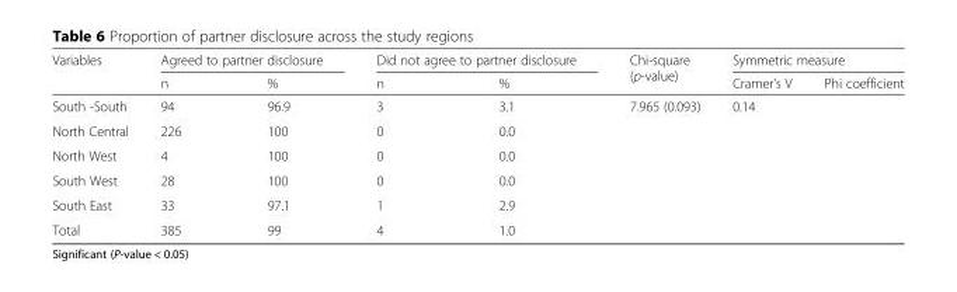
<table><thead><tr><td rowspan="2">Variables</td><td colspan="2">Agreed to partner disclosure</td><td colspan="2">Did not agree to partner disclosure</td><td rowspan="2">Chi-square (p-value)</td><td colspan="2">Symmetric measure</td></tr><tr><td>n</td><td>%</td><td>n</td><td>%</td><td>Cramer&#x27;s V</td><td>Phi coefficient</td></tr></thead><tbody><tr><td>South -South</td><td>94</td><td>96.9</td><td>3</td><td>3.1</td><td>7.965 (0.093)</td><td>0.14</td><td></td></tr><tr><td>North Central</td><td>226</td><td>100</td><td>0</td><td>0.0</td><td rowspan="5" colspan="3"></td></tr><tr><td>North West</td><td>4</td><td>100</td><td>0</td><td>0.0</td></tr><tr><td>South West</td><td>28</td><td>100</td><td>0</td><td>0.0</td></tr><tr><td>South East</td><td>33</td><td>97.1</td><td>1</td><td>2.9</td></tr><tr><td>Total</td><td>385</td><td>99</td><td>4</td><td>1.0</td></tr></tbody></table>